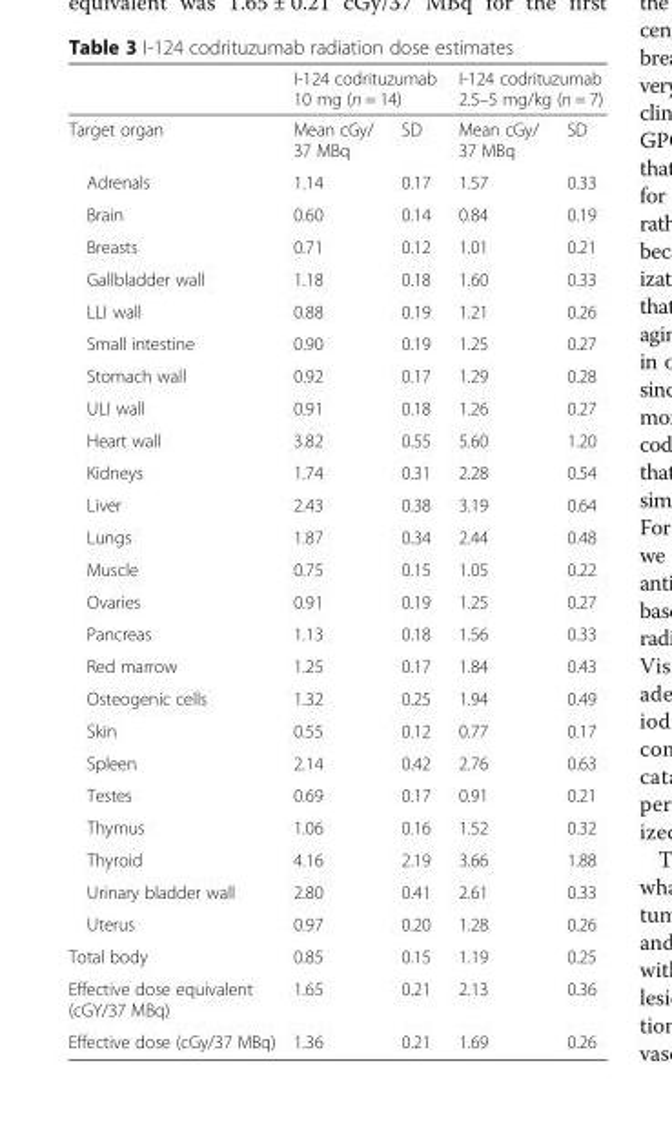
<table><thead><tr><td rowspan="2">Target organ</td><td colspan="2">I-124 codrituzumab 10 mg (n = 14)</td><td colspan="2">I-124 codrituzumab 2.5–5 mg/kg (n = 7)</td></tr><tr><td>Mean cGy/ 37 MBq</td><td>SD</td><td>Mean cGy/ 37 MBq</td><td>SD</td></tr></thead><tbody><tr><td>Adrenals</td><td>1.14</td><td>0.17</td><td>1.57</td><td>0.33</td></tr><tr><td>Brain</td><td>0.60</td><td>0.14</td><td>0.84</td><td>0.19</td></tr><tr><td>Breasts</td><td>0.71</td><td>0.12</td><td>1.01</td><td>0.21</td></tr><tr><td>Gallbladder wall</td><td>1.18</td><td>0.18</td><td>1.60</td><td>0.33</td></tr><tr><td>LLI wall</td><td>0.88</td><td>0.19</td><td>1.21</td><td>0.26</td></tr><tr><td>Small intestine</td><td>0.90</td><td>0.19</td><td>1.25</td><td>0.27</td></tr><tr><td>Stomach wall</td><td>0.92</td><td>0.17</td><td>1.29</td><td>0.28</td></tr><tr><td>ULI wall</td><td>0.91</td><td>0.18</td><td>1.26</td><td>0.27</td></tr><tr><td>Heart wall</td><td>3.82</td><td>0.55</td><td>5.60</td><td>1.20</td></tr><tr><td>Kidneys</td><td>1.74</td><td>0.31</td><td>2.28</td><td>0.54</td></tr><tr><td>Liver</td><td>2.43</td><td>0.38</td><td>3.19</td><td>0.64</td></tr><tr><td>Lungs</td><td>1.87</td><td>0.34</td><td>2.44</td><td>0.48</td></tr><tr><td>Muscle</td><td>0.75</td><td>0.15</td><td>1.05</td><td>0.22</td></tr><tr><td>Ovaries</td><td>0.91</td><td>0.19</td><td>1.25</td><td>0.27</td></tr><tr><td>Pancreas</td><td>1.13</td><td>0.18</td><td>1.56</td><td>0.33</td></tr><tr><td>Red marrow</td><td>1.25</td><td>0.17</td><td>1.84</td><td>0.43</td></tr><tr><td>Osteogenic cells</td><td>1.32</td><td>0.25</td><td>1.94</td><td>0.49</td></tr><tr><td>Skin</td><td>0.55</td><td>0.12</td><td>0.77</td><td>0.17</td></tr><tr><td>Spleen</td><td>2.14</td><td>0.42</td><td>2.76</td><td>0.63</td></tr><tr><td>Testes</td><td>0.69</td><td>0.17</td><td>0.91</td><td>0.21</td></tr><tr><td>Thymus</td><td>1.06</td><td>0.16</td><td>1.52</td><td>0.32</td></tr><tr><td>Thyroid</td><td>4.16</td><td>2.19</td><td>3.66</td><td>1.88</td></tr><tr><td>Urinary bladder wall</td><td>2.80</td><td>0.41</td><td>2.61</td><td>0.33</td></tr><tr><td>Uterus</td><td>0.97</td><td>0.20</td><td>1.28</td><td>0.26</td></tr><tr><td>Total body</td><td>0.85</td><td>0.15</td><td>1.19</td><td>0.25</td></tr><tr><td>Effective dose equivalent (cGY/37 MBq)</td><td>1.65</td><td>0.21</td><td>2.13</td><td>0.36</td></tr><tr><td>Effective dose (cGy/37 MBq)</td><td>1.36</td><td>0.21</td><td>1.69</td><td>0.26</td></tr></tbody></table>